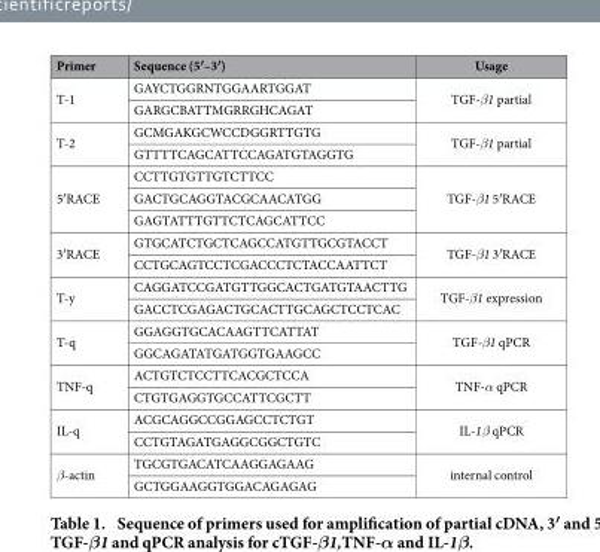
<table><thead><tr><td>Primer</td><td>Sequence (5′–3′)</td><td>Usage</td></tr></thead><tbody><tr><td rowspan="2">T-1</td><td>GAYCTGGRNTGGAARTGGAT</td><td rowspan="2">TGF-β1 partial</td></tr><tr><td>GARGCBATTMGRRGHCAGAT</td></tr><tr><td rowspan="2">T-2</td><td>GCMGAKGCWCCDGGRTTGTG</td><td rowspan="2">TGF-β1 partial</td></tr><tr><td>GTTTTCAGCATTCCAGATGTAGGTG</td></tr><tr><td rowspan="3">5′ RACE</td><td>CCTTGTGTTGTCTTCC</td><td rowspan="3">TGF-β1 5′ RACE</td></tr><tr><td>GACTGCAGGTACGCAACATGG</td></tr><tr><td>GAGTATTTGTTCTCAGCATTCC</td></tr><tr><td rowspan="2">3′ RACE</td><td>GTGCATCTGCTCAGCCATGTTGCGTACCT</td><td rowspan="2">TGF-β1 3′ RACE</td></tr><tr><td>CCTGCAGTCCTCGACCCTCTACCAATTCT</td></tr><tr><td rowspan="2">T-y</td><td>CAGGATCCGATGTTGGCACTGATGTAACTTG</td><td rowspan="2">TGF-β1 expression</td></tr><tr><td>GACCTCGAGACTGCACTTGCAGCTCCTCAC</td></tr><tr><td rowspan="2">T-q</td><td>GGAGGTGCACAAGTTCATTAT</td><td rowspan="2">TGF-β1 qPCR</td></tr><tr><td>GGCAGATATGATGGTGAAGCC</td></tr><tr><td rowspan="2">TNF-q</td><td>ACTGTCTCCTTCACGCTCCA</td><td rowspan="2">TNF-α qPCR</td></tr><tr><td>CTGTGAGGTGCCATTCGCTT</td></tr><tr><td rowspan="2">IL-q</td><td>ACGCAGGCCGGAGCCTCTGT</td><td rowspan="2">IL-1β qPCR</td></tr><tr><td>CCTGTAGATGAGGCGGCTGTC</td></tr><tr><td rowspan="2">β-actin</td><td>TGCGTGACATCAAGGAGAAG</td><td rowspan="2">internal control</td></tr><tr><td>GCTGGAAGGTGGACAGAGAG</td></tr></tbody></table>